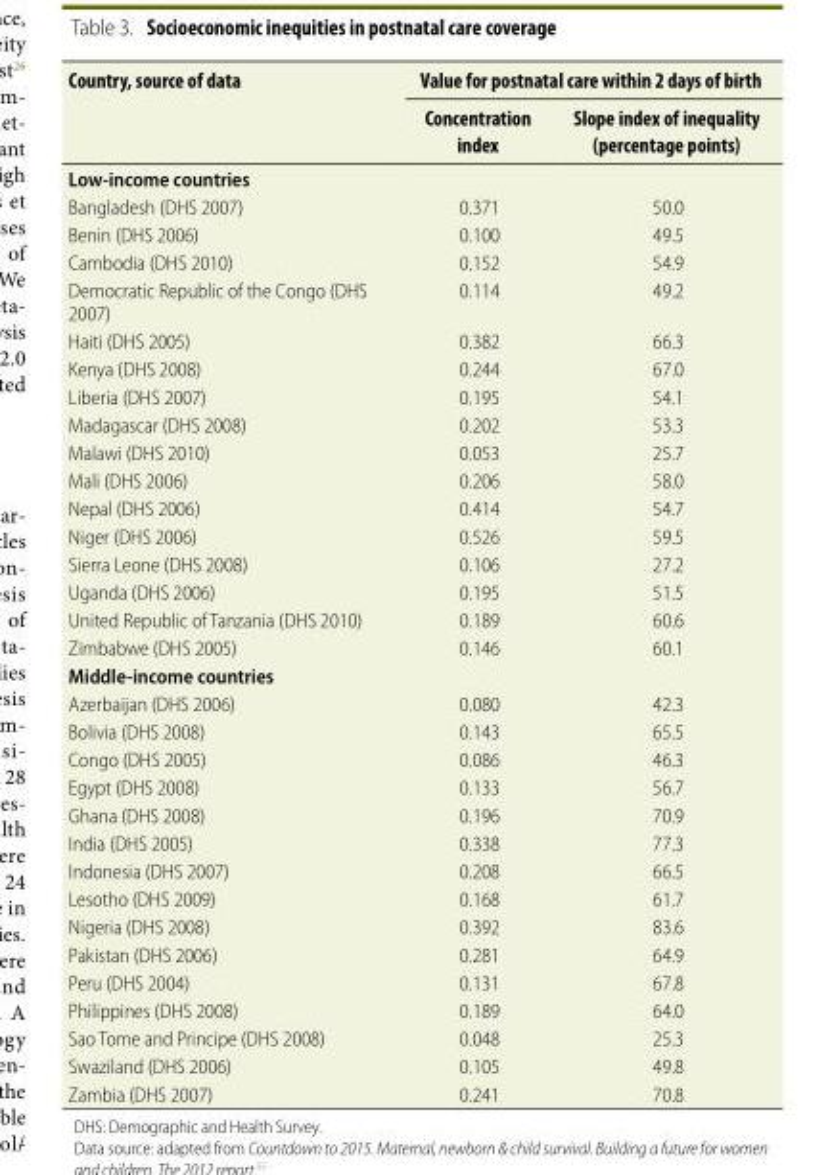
<table><thead><tr><td rowspan="2">Country, source of data</td><td colspan="2">Value for postnatal care within 2 days of birth</td></tr><tr><td>Concentration index</td><td>Slope index of inequality (percentage points)</td></tr></thead><tbody><tr><td colspan="3">Low-income countries</td></tr><tr><td>Bangladesh (DHS 2007)</td><td>0.371</td><td>50.0</td></tr><tr><td>Benin (DHS 2006)</td><td>0.100</td><td>49.5</td></tr><tr><td>Cambodia (DHS 2010)</td><td>0.152</td><td>54.9</td></tr><tr><td>Democratic Republic of the Congo (DHS 2007)</td><td>0.114</td><td>49.2</td></tr><tr><td>Haiti (DHS 2005)</td><td>0.382</td><td>66.3</td></tr><tr><td>Kenya (DHS 2008)</td><td>0.244</td><td>67.0</td></tr><tr><td>Liberia (DHS 2007)</td><td>0.195</td><td>54.1</td></tr><tr><td>Madagascar (DHS 2008)</td><td>0.202</td><td>53.3</td></tr><tr><td>Malawi (DHS 2010)</td><td>0.053</td><td>25.7</td></tr><tr><td>Mali (DHS 2006)</td><td>0.206</td><td>58.0</td></tr><tr><td>Nepal (DHS 2006)</td><td>0.414</td><td>54.7</td></tr><tr><td>Niger (DHS 2006)</td><td>0.526</td><td>59.5</td></tr><tr><td>Sierra Leone (DHS 2008)</td><td>0.106</td><td>27.2</td></tr><tr><td>Uganda (DHS 2006)</td><td>0.195</td><td>51.5</td></tr><tr><td>United Republic of Tanzania (DHS 2010)</td><td>0.189</td><td>60.6</td></tr><tr><td>Zimbabwe (DHS 2005)</td><td>0.146</td><td>60.1</td></tr><tr><td colspan="3">Middle-income countries</td></tr><tr><td>Azerbaijan (DHS 2006)</td><td>0.080</td><td>42.3</td></tr><tr><td>Bolivia (DHS 2008)</td><td>0.143</td><td>65.5</td></tr><tr><td>Congo (DHS 2005)</td><td>0.086</td><td>46.3</td></tr><tr><td>Egypt (DHS 2008)</td><td>0.133</td><td>56.7</td></tr><tr><td>Ghana (DHS 2008)</td><td>0.196</td><td>70.9</td></tr><tr><td>India (DHS 2005)</td><td>0.338</td><td>77.3</td></tr><tr><td>Indonesia (DHS 2007)</td><td>0.208</td><td>66.5</td></tr><tr><td>Lesotho (DHS 2009)</td><td>0.168</td><td>61.7</td></tr><tr><td>Nigeria (DHS 2008)</td><td>0.392</td><td>83.6</td></tr><tr><td>Pakistan (DHS 2006)</td><td>0.281</td><td>64.9</td></tr><tr><td>Peru (DHS 2004)</td><td>0.131</td><td>67.8</td></tr><tr><td>Philippines (DHS 2008)</td><td>0.189</td><td>64.0</td></tr><tr><td>Sao Tome and Principe (DHS 2008)</td><td>0.048</td><td>25.3</td></tr><tr><td>Swaziland (DHS 2006)</td><td>0.105</td><td>49.8</td></tr><tr><td>Zambia (DHS 2007)</td><td>0.241</td><td>70.8</td></tr></tbody></table>